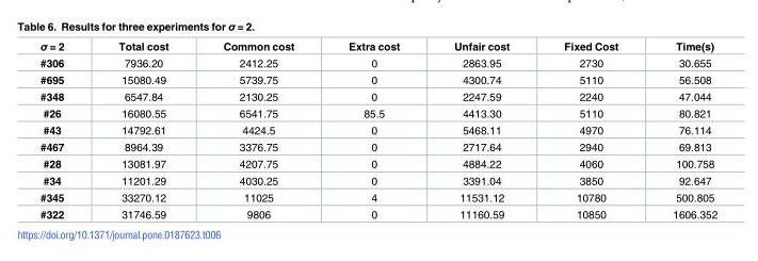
<table><thead><tr><td>σ = 2</td><td>Total cost</td><td>Common cost</td><td>Extra cost</td><td>Unfair cost</td><td>Fixed Cost</td><td>Time(s)</td></tr></thead><tbody><tr><td>#306</td><td>7936.20</td><td>2412.25</td><td>0</td><td>2863.95</td><td>2730</td><td>30.655</td></tr><tr><td>#695</td><td>15080.49</td><td>5739.75</td><td>0</td><td>4300.74</td><td>5110</td><td>56.508</td></tr><tr><td>#348</td><td>6547.84</td><td>2130.25</td><td>0</td><td>2247.59</td><td>2240</td><td>47.044</td></tr><tr><td>#26</td><td>16080.55</td><td>6541.75</td><td>85.5</td><td>4413.30</td><td>5110</td><td>80.821</td></tr><tr><td>#43</td><td>14792.61</td><td>4424.5</td><td>0</td><td>5468.11</td><td>4970</td><td>76.114</td></tr><tr><td>#467</td><td>8964.39</td><td>3376.75</td><td>0</td><td>2717.64</td><td>2940</td><td>69.813</td></tr><tr><td>#28</td><td>13081.97</td><td>4207.75</td><td>0</td><td>4884.22</td><td>4060</td><td>100.758</td></tr><tr><td>#34</td><td>11201.29</td><td>4030.25</td><td>0</td><td>3391.04</td><td>3850</td><td>92.647</td></tr><tr><td>#345</td><td>33270.12</td><td>11025</td><td>4</td><td>11531.12</td><td>10780</td><td>500.805</td></tr><tr><td>#322</td><td>31746.59</td><td>9806</td><td>0</td><td>11160.59</td><td>10850</td><td>1606.352</td></tr></tbody></table>